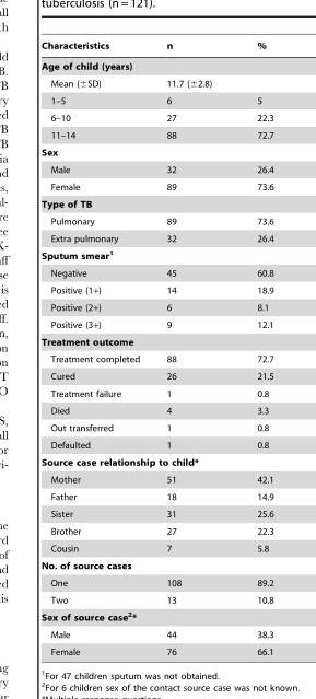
<table><thead><tr><td>Characteristics</td><td>n</td><td>%</td></tr></thead><tbody><tr><td colspan="3">Age of child (years)</td></tr><tr><td>Mean (±SD)</td><td>11.7 (±2.8)</td><td></td></tr><tr><td>1–5</td><td>6</td><td>5</td></tr><tr><td>6–10</td><td>27</td><td>22.3</td></tr><tr><td>11–14</td><td>88</td><td>72.7</td></tr><tr><td colspan="3">Sex</td></tr><tr><td>Male</td><td>32</td><td>26.4</td></tr><tr><td>Female</td><td>89</td><td>73.6</td></tr><tr><td colspan="3">Type of TB</td></tr><tr><td>Pulmonary</td><td>89</td><td>73.6</td></tr><tr><td>Extra pulmonary</td><td>32</td><td>26.4</td></tr><tr><td colspan="3">Sputum smear1</td></tr><tr><td>Negative</td><td>45</td><td>60.8</td></tr><tr><td>Positive (1+)</td><td>14</td><td>18.9</td></tr><tr><td>Positive (2+)</td><td>6</td><td>8.1</td></tr><tr><td>Positive (3+)</td><td>9</td><td>12.1</td></tr><tr><td colspan="3">Treatment outcome</td></tr><tr><td>Treatment completed</td><td>88</td><td>72.7</td></tr><tr><td>Cured</td><td>26</td><td>21.5</td></tr><tr><td>Treatment failure</td><td>1</td><td>0.8</td></tr><tr><td>Died</td><td>4</td><td>3.3</td></tr><tr><td>Out transferred</td><td>1</td><td>0.8</td></tr><tr><td>Defaulted</td><td>1</td><td>0.8</td></tr><tr><td colspan="3">Source case relationship to child*</td></tr><tr><td>Mother</td><td>51</td><td>42.1</td></tr><tr><td>Father</td><td>18</td><td>14.9</td></tr><tr><td>Sister</td><td>31</td><td>25.6</td></tr><tr><td>Brother</td><td>27</td><td>22.3</td></tr><tr><td>Cousin</td><td>7</td><td>5.8</td></tr><tr><td colspan="3">No. of source cases</td></tr><tr><td>One</td><td>108</td><td>89.2</td></tr><tr><td>Two</td><td>13</td><td>10.8</td></tr><tr><td colspan="3">Sex of source case2*</td></tr><tr><td>Male</td><td>44</td><td>38.3</td></tr><tr><td>Female</td><td>76</td><td>66.1</td></tr></tbody></table>